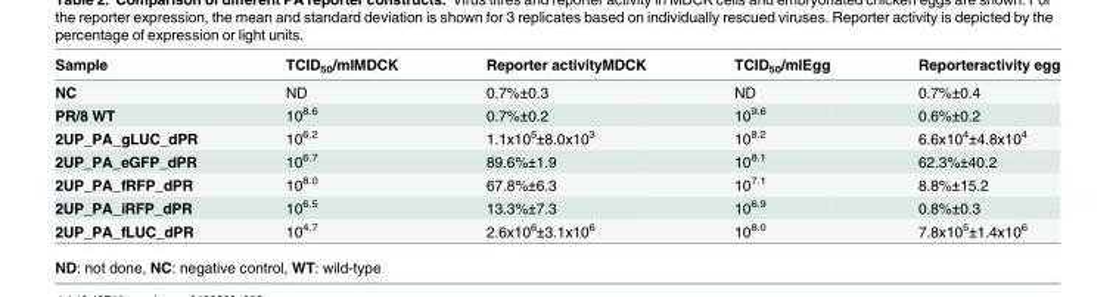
<table><thead><tr><td>Sample</td><td>TCID<sub>50</sub>/mlMDCK</td><td>Reporter activityMDCK</td><td>TCID<sub>50</sub>/mlEgg</td><td>Reporteractivity egg</td></tr></thead><tbody><tr><td>NC</td><td>ND</td><td>0.7%±0.3</td><td>ND</td><td>0.7%±0.4</td></tr><tr><td>PR/8 WT</td><td>10<sup>8.6</sup></td><td>0.7%±0.2</td><td>10<sup>9.6</sup></td><td>0.6%±0.2</td></tr><tr><td>2UP_PA_gLUC_dPR</td><td>10<sup>6.2</sup></td><td>1.1x10<sup>5</sup>±8.0x10<sup>3</sup></td><td>10<sup>8.2</sup></td><td>6.6x10<sup>4</sup>±4.8x10<sup>4</sup></td></tr><tr><td>2UP_PA_eGFP_dPR</td><td>10<sup>6.7</sup></td><td>89.6%±1.9</td><td>10<sup>8.1</sup></td><td>62.3%±40.2</td></tr><tr><td>2UP_PA_fRFP_dPR</td><td>10<sup>8.0</sup></td><td>67.8%±6.3</td><td>10<sup>7.1</sup></td><td>8.8%±15.2</td></tr><tr><td>2UP_PA_iRFP_dPR</td><td>10<sup>6.5</sup></td><td>13.3%±7.3</td><td>10<sup>6.9</sup></td><td>0.8%±0.3</td></tr><tr><td>2UP_PA_fLUC_dPR</td><td>10<sup>4.7</sup></td><td>2.6x10<sup>6</sup>±3.1x10<sup>6</sup></td><td>10<sup>8.0</sup></td><td>7.8x10<sup>5</sup>±1.4x10<sup>6</sup></td></tr></tbody></table>